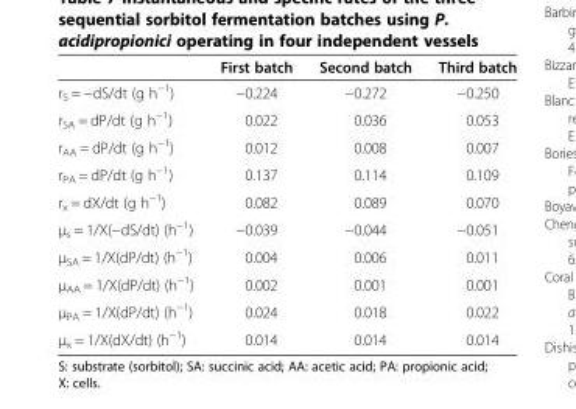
<table><thead><tr><td></td><td>First batch</td><td>Second batch</td><td>Third batch</td></tr></thead><tbody><tr><td>r<sub>S</sub> = −dS/dt (g h<sup>−1</sup>)</td><td>−0.224</td><td>−0.272</td><td>−0.250</td></tr><tr><td>r<sub>SA</sub> = dP/dt (g h<sup>−1</sup>)</td><td>0.022</td><td>0.036</td><td>0.053</td></tr><tr><td>r<sub>AA</sub> = dP/dt (g h<sup>−1</sup>)</td><td>0.012</td><td>0.008</td><td>0.007</td></tr><tr><td>r<sub>PA</sub> = dP/dt (g h<sup>−1</sup>)</td><td>0.137</td><td>0.114</td><td>0.109</td></tr><tr><td>r<sub>x</sub> = dX/dt (g h<sup>−1</sup>)</td><td>0.082</td><td>0.089</td><td>0.070</td></tr><tr><td>μ<sub>s</sub> = 1/X(−dS/dt) (h<sup>−1</sup>)</td><td>−0.039</td><td>−0.044</td><td>−0.051</td></tr><tr><td>μ<sub>SA</sub> = 1/X(dP/dt) (h<sup>−1</sup>)</td><td>0.004</td><td>0.006</td><td>0.011</td></tr><tr><td>μ<sub>AA</sub> = 1/X(dP/dt) (h<sup>−1</sup>)</td><td>0.002</td><td>0.001</td><td>0.001</td></tr><tr><td>μ<sub>PA</sub> = 1/X(dP/dt) (h<sup>−1</sup>)</td><td>0.024</td><td>0.018</td><td>0.022</td></tr><tr><td>μ<sub>x</sub> = 1/X(dX/dt) (h<sup>−1</sup>)</td><td>0.014</td><td>0.014</td><td>0.014</td></tr></tbody></table>